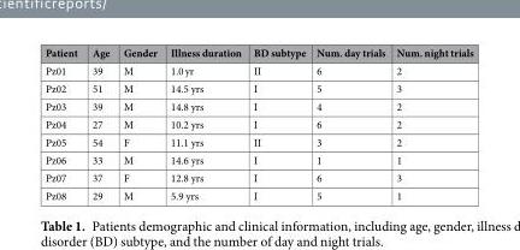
<table><thead><tr><td>Patient</td><td>Age</td><td>Gender</td><td>Illness duration</td><td>BD subtype</td><td>Num. day trials</td><td>Num. night trials</td></tr></thead><tbody><tr><td>Pz01</td><td>39</td><td>M</td><td>1.0 yr</td><td>II</td><td>6</td><td>2</td></tr><tr><td>Pz02</td><td>51</td><td>M</td><td>14.5 yrs</td><td>I</td><td>5</td><td>3</td></tr><tr><td>Pz03</td><td>39</td><td>M</td><td>14.8 yrs</td><td>I</td><td>4</td><td>2</td></tr><tr><td>Pz04</td><td>27</td><td>M</td><td>10.2 yrs</td><td>I</td><td>6</td><td>2</td></tr><tr><td>Pz05</td><td>54</td><td>F</td><td>11.1 yrs</td><td>II</td><td>3</td><td>2</td></tr><tr><td>Pz06</td><td>33</td><td>M</td><td>14.6 yrs</td><td>I</td><td>1</td><td>1</td></tr><tr><td>Pz07</td><td>37</td><td>F</td><td>12.8 yrs</td><td>I</td><td>6</td><td>3</td></tr><tr><td>Pz08</td><td>29</td><td>M</td><td>5.9 yrs</td><td>I</td><td>5</td><td>1</td></tr></tbody></table>